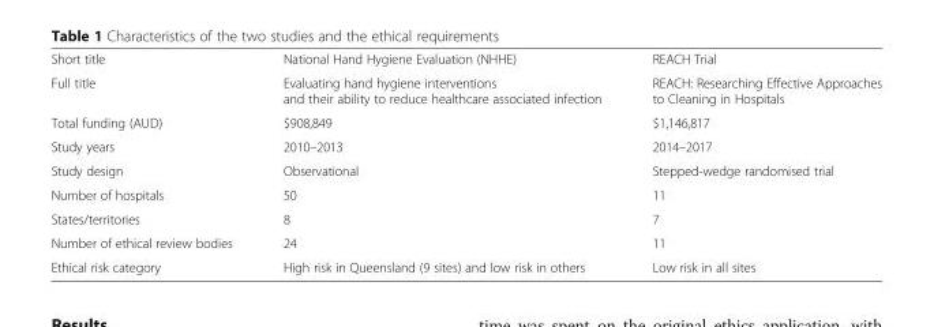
<table><tbody><tr><td>Short title</td><td>National Hand Hygiene Evaluation (NHHE)</td><td>REACH Trial</td></tr><tr><td>Full title</td><td>Evaluating hand hygiene interventions and their ability to reduce healthcare associated infection</td><td>REACH: Researching Effective Approaches to Cleaning in Hospitals</td></tr><tr><td>Total funding (AUD)</td><td>$908,849</td><td>$1,146,817</td></tr><tr><td>Study years</td><td>2010–2013</td><td>2014–2017</td></tr><tr><td>Study design</td><td>Observational</td><td>Stepped-wedge randomised trial</td></tr><tr><td>Number of hospitals</td><td>50</td><td>11</td></tr><tr><td>States/territories</td><td>8</td><td>7</td></tr><tr><td>Number of ethical review bodies</td><td>24</td><td>11</td></tr><tr><td>Ethical risk category</td><td>High risk in Queensland (9 sites) and low risk in others</td><td>Low risk in all sites</td></tr></tbody></table>